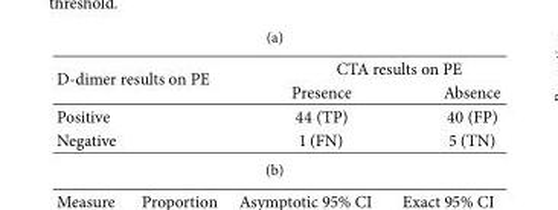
<table><thead><tr><td rowspan="2">D-dimer results on PE</td><td colspan="2">CTA results on PE</td></tr><tr><td>Presence</td><td>Absence</td></tr></thead><tbody><tr><td>Positive</td><td>44 (TP)</td><td>40 (FP)</td></tr><tr><td>Negative</td><td>1 (FN)</td><td>5 (TN)</td></tr></tbody></table>